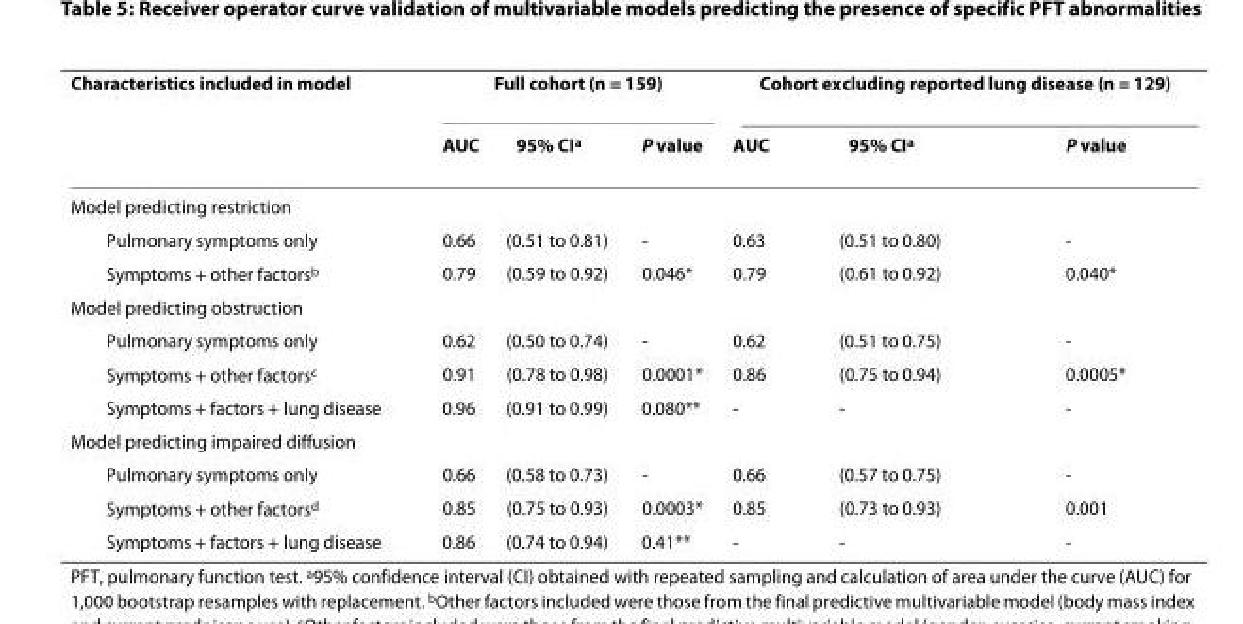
<table><thead><tr><td rowspan="2">Characteristics included in model</td><td colspan="3">Full cohort (n = 159)</td><td colspan="3">Cohort excluding reported lung disease (n = 129)</td></tr><tr><td>AUC</td><td>95% CI<sup>a</sup></td><td>P value</td><td>AUC</td><td>95% CI<sup>a</sup></td><td>P value</td></tr></thead><tbody><tr><td colspan="7">Model predicting restriction</td></tr><tr><td>Pulmonary symptoms only</td><td>0.66</td><td>(0.51 to 0.81)</td><td>-</td><td>0.63</td><td>(0.51 to 0.80)</td><td>-</td></tr><tr><td>Symptoms + other factors<sup>b</sup></td><td>0.79</td><td>(0.59 to 0.92)</td><td>0.046*</td><td>0.79</td><td>(0.61 to 0.92)</td><td>0.040*</td></tr><tr><td colspan="7">Model predicting obstruction</td></tr><tr><td>Pulmonary symptoms only</td><td>0.62</td><td>(0.50 to 0.74)</td><td>-</td><td>0.62</td><td>(0.51 to 0.75)</td><td>-</td></tr><tr><td>Symptoms + other factors<sup>c</sup></td><td>0.91</td><td>(0.78 to 0.98)</td><td>0.0001*</td><td>0.86</td><td>(0.75 to 0.94)</td><td>0.0005*</td></tr><tr><td>Symptoms + factors + lung disease</td><td>0.96</td><td>(0.91 to 0.99)</td><td>0.080**</td><td>-</td><td>-</td><td>-</td></tr><tr><td colspan="7">Model predicting impaired diffusion</td></tr><tr><td>Pulmonary symptoms only</td><td>0.66</td><td>(0.58 to 0.73)</td><td>-</td><td>0.66</td><td>(0.57 to 0.75)</td><td>-</td></tr><tr><td>Symptoms + other factors<sup>d</sup></td><td>0.85</td><td>(0.75 to 0.93)</td><td>0.0003*</td><td>0.85</td><td>(0.73 to 0.93)</td><td>0.001</td></tr><tr><td>Symptoms + factors + lung disease</td><td>0.86</td><td>(0.74 to 0.94)</td><td>0.41**</td><td>-</td><td>-</td><td>-</td></tr></tbody></table>